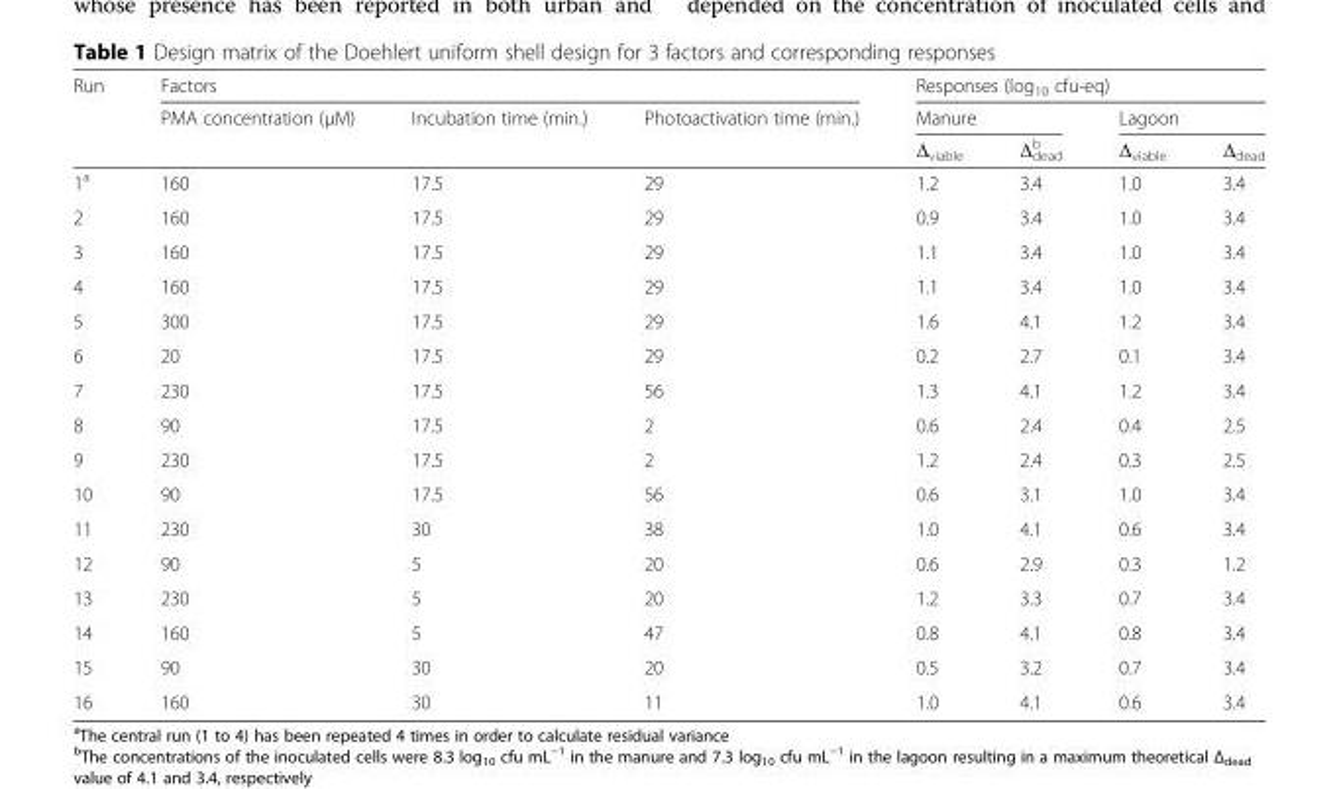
<table><thead><tr><td rowspan="3">Run</td><td colspan="3">Factors</td><td colspan="4">Responses (log<sub>10</sub> cfu-eq)</td></tr><tr><td rowspan="2">PMA concentration (μM)</td><td rowspan="2">Incubation time (min.)</td><td rowspan="2">Photoactivation time (min.)</td><td colspan="2">Manure</td><td colspan="2">Lagoon</td></tr><tr><td>Δ<sub>viable</sub></td><td>Δ<sub>dead</sub> <sup>b</sup></td><td>Δ<sub>viable</sub></td><td>Δ<sub>dead</sub></td></tr></thead><tbody><tr><td>1<sup>a</sup></td><td>160</td><td>17.5</td><td>29</td><td>1.2</td><td>3.4</td><td>1.0</td><td>3.4</td></tr><tr><td>2</td><td>160</td><td>17.5</td><td>29</td><td>0.9</td><td>3.4</td><td>1.0</td><td>3.4</td></tr><tr><td>3</td><td>160</td><td>17.5</td><td>29</td><td>1.1</td><td>3.4</td><td>1.0</td><td>3.4</td></tr><tr><td>4</td><td>160</td><td>17.5</td><td>29</td><td>1.1</td><td>3.4</td><td>1.0</td><td>3.4</td></tr><tr><td>5</td><td>300</td><td>17.5</td><td>29</td><td>1.6</td><td>4.1</td><td>1.2</td><td>3.4</td></tr><tr><td>6</td><td>20</td><td>17.5</td><td>29</td><td>0.2</td><td>2.7</td><td>0.1</td><td>3.4</td></tr><tr><td>7</td><td>230</td><td>17.5</td><td>56</td><td>1.3</td><td>4.1</td><td>1.2</td><td>3.4</td></tr><tr><td>8</td><td>90</td><td>17.5</td><td>2</td><td>0.6</td><td>2.4</td><td>0.4</td><td>2.5</td></tr><tr><td>9</td><td>230</td><td>17.5</td><td>2</td><td>1.2</td><td>2.4</td><td>0.3</td><td>2.5</td></tr><tr><td>10</td><td>90</td><td>17.5</td><td>56</td><td>0.6</td><td>3.1</td><td>1.0</td><td>3.4</td></tr><tr><td>11</td><td>230</td><td>30</td><td>38</td><td>1.0</td><td>4.1</td><td>0.6</td><td>3.4</td></tr><tr><td>12</td><td>90</td><td>5</td><td>20</td><td>0.6</td><td>2.9</td><td>0.3</td><td>1.2</td></tr><tr><td>13</td><td>230</td><td>5</td><td>20</td><td>1.2</td><td>3.3</td><td>0.7</td><td>3.4</td></tr><tr><td>14</td><td>160</td><td>5</td><td>47</td><td>0.8</td><td>4.1</td><td>0.8</td><td>3.4</td></tr><tr><td>15</td><td>90</td><td>30</td><td>20</td><td>0.5</td><td>3.2</td><td>0.7</td><td>3.4</td></tr><tr><td>16</td><td>160</td><td>30</td><td>11</td><td>1.0</td><td>4.1</td><td>0.6</td><td>3.4</td></tr></tbody></table>